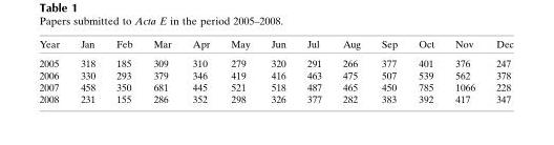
<table><thead><tr><td>Year</td><td>Jan</td><td>Feb</td><td>Mar</td><td>Apr</td><td>May</td><td>Jun</td><td>Jul</td><td>Aug</td><td>Sep</td><td>Oct</td><td>Nov</td><td>Dec</td></tr></thead><tbody><tr><td>2005</td><td>318</td><td>185</td><td>309</td><td>310</td><td>279</td><td>320</td><td>291</td><td>266</td><td>377</td><td>401</td><td>376</td><td>247</td></tr><tr><td>2006</td><td>330</td><td>293</td><td>379</td><td>346</td><td>419</td><td>416</td><td>463</td><td>475</td><td>507</td><td>539</td><td>562</td><td>378</td></tr><tr><td>2007</td><td>458</td><td>350</td><td>681</td><td>445</td><td>521</td><td>518</td><td>487</td><td>465</td><td>450</td><td>785</td><td>1066</td><td>228</td></tr><tr><td>2008</td><td>231</td><td>155</td><td>286</td><td>352</td><td>298</td><td>326</td><td>377</td><td>282</td><td>383</td><td>392</td><td>417</td><td>347</td></tr></tbody></table>